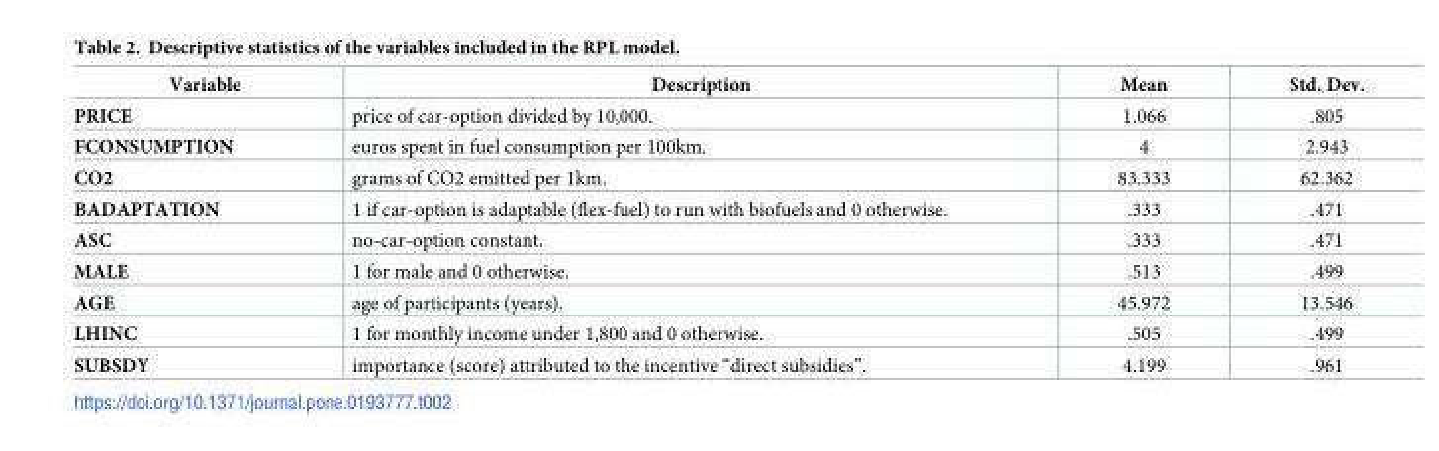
<table><thead><tr><td>Variable</td><td>Description</td><td>Mean</td><td>Std. Dev.</td></tr></thead><tbody><tr><td>PRICE</td><td>price of car-option divided by 10,000.</td><td>1.066</td><td>.805</td></tr><tr><td>FCONSUMPTION</td><td>euros spent in fuel consumption per 100km.</td><td>4</td><td>2.943</td></tr><tr><td>CO2</td><td>grams of CO2 emitted per 1km.</td><td>83.333</td><td>62.362</td></tr><tr><td>BADAPTATION</td><td>1 if car-option is adaptable (flex-fuel) to run with biofuels and 0 otherwise.</td><td>.333</td><td>.471</td></tr><tr><td>ASC</td><td>no-car-option constant.</td><td>.333</td><td>.471</td></tr><tr><td>MALE</td><td>1 for male and 0 otherwise.</td><td>.513</td><td>.499</td></tr><tr><td>AGE</td><td>age of participants (years).</td><td>45.972</td><td>13.546</td></tr><tr><td>LHINC</td><td>1 for monthly income under 1,800 and 0 otherwise.</td><td>.505</td><td>.499</td></tr><tr><td>SUBSDY</td><td>importance (score) attributed to the incentive “direct subsidies”.</td><td>4.199</td><td>.961</td></tr></tbody></table>